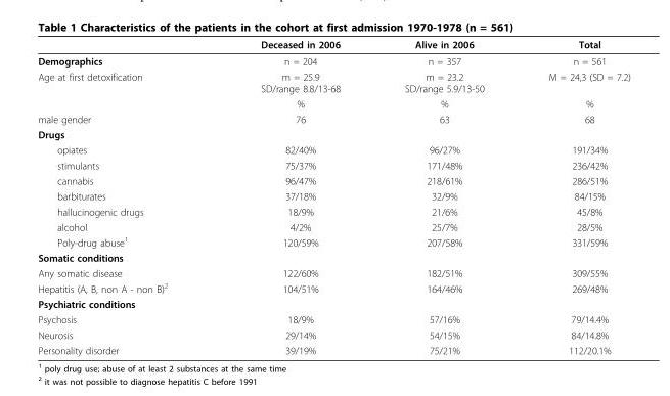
<table><thead><tr><td></td><td>Deceased in 2006</td><td>Alive in 2006</td><td>Total</td></tr></thead><tbody><tr><td>Demographics</td><td>n = 204</td><td>n = 357</td><td>n = 561</td></tr><tr><td rowspan="2">Age at first detoxification</td><td>m = 25.9 SD/range 8.8/13-68</td><td>m = 23.2 SD/range 5.9/13-50</td><td>M = 24,3 (SD = 7.2)</td></tr><tr><td>%</td><td>%</td><td>%</td></tr><tr><td>male gender</td><td>76</td><td>63</td><td>68</td></tr><tr><td colspan="4">Drugs</td></tr><tr><td>opiates</td><td>82/40%</td><td>96/27%</td><td>191/34%</td></tr><tr><td>stimulants</td><td>75/37%</td><td>171/48%</td><td>236/42%</td></tr><tr><td>cannabis</td><td>96/47%</td><td>218/61%</td><td>286/51%</td></tr><tr><td>barbiturates</td><td>37/18%</td><td>32/9%</td><td>84/15%</td></tr><tr><td>hallucinogenic drugs</td><td>18/9%</td><td>21/6%</td><td>45/8%</td></tr><tr><td>alcohol</td><td>4/2%</td><td>25/7%</td><td>28/5%</td></tr><tr><td>Poly-drug abuse<sup>1</sup></td><td>120/59%</td><td>207/58%</td><td>331/59%</td></tr><tr><td colspan="4">Somatic conditions</td></tr><tr><td>Any somatic disease</td><td>122/60%</td><td>182/51%</td><td>309/55%</td></tr><tr><td>Hepatitis (A, B, non A - non B)<sup>2</sup></td><td>104/51%</td><td>164/46%</td><td>269/48%</td></tr><tr><td colspan="4">Psychiatric conditions</td></tr><tr><td>Psychosis</td><td>18/9%</td><td>57/16%</td><td>79/14.4%</td></tr><tr><td>Neurosis</td><td>29/14%</td><td>54/15%</td><td>84/14.8%</td></tr><tr><td>Personality disorder</td><td>39/19%</td><td>75/21%</td><td>112/20.1%</td></tr></tbody></table>